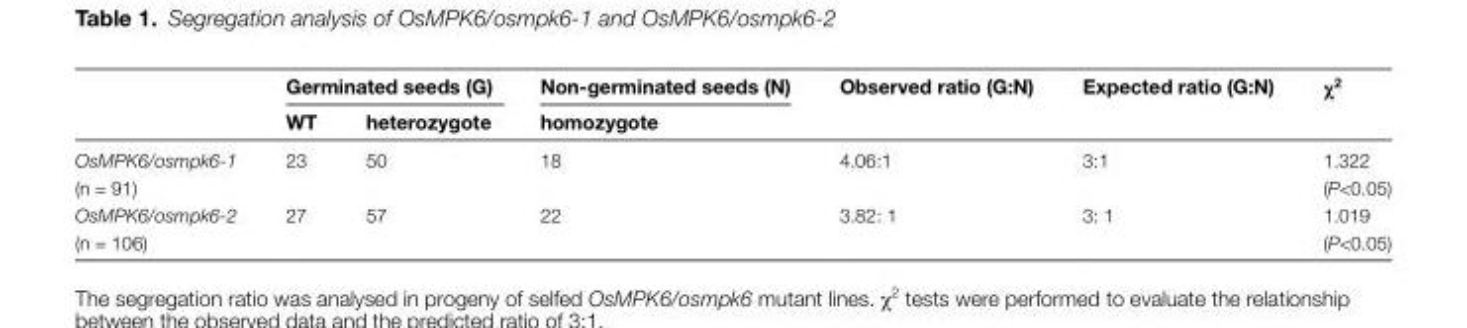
<table><thead><tr><td rowspan="2"></td><td colspan="2">Germinated seeds (G)</td><td rowspan="2">Non-germinated seeds (N) homozygote</td><td rowspan="2">Observed ratio (G:N)</td><td rowspan="2">Expected ratio (G:N)</td><td rowspan="2">χ<sup>2</sup></td></tr><tr><td>WT</td><td>heterozygote</td></tr></thead><tbody><tr><td>OsMPK6/osmpk6-1 (n = 91)</td><td>23</td><td>50</td><td>18</td><td>4.06:1</td><td>3:1</td><td>1.322 (P&lt;0.05)</td></tr><tr><td>OsMPK6/osmpk6-2 (n = 106)</td><td>27</td><td>57</td><td>22</td><td>3.82: 1</td><td>3: 1</td><td>1.019 (P&lt;0.05)</td></tr></tbody></table>